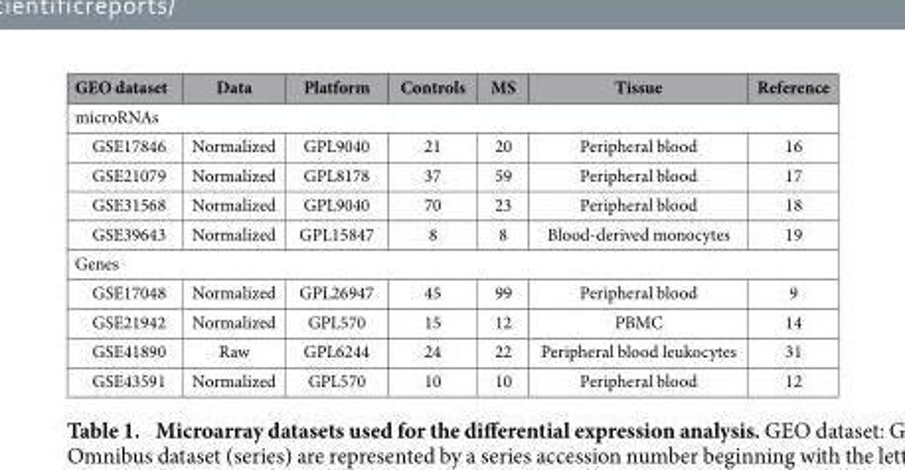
<table><thead><tr><td>GEO dataset</td><td>Data</td><td>Platform</td><td>Controls</td><td>MS</td><td>Tissue</td><td>Reference</td></tr></thead><tbody><tr><td colspan="7">microRNAs</td></tr><tr><td>GSE17846</td><td>Normalized</td><td>GPL9040</td><td>21</td><td>20</td><td>Peripheral blood</td><td>16</td></tr><tr><td>GSE21079</td><td>Normalized</td><td>GPL8178</td><td>37</td><td>59</td><td>Peripheral blood</td><td>17</td></tr><tr><td>GSE31568</td><td>Normalized</td><td>GPL9040</td><td>70</td><td>23</td><td>Peripheral blood</td><td>18</td></tr><tr><td>GSE39643</td><td>Normalized</td><td>GPL15847</td><td>8</td><td>8</td><td>Blood-derived monocytes</td><td>19</td></tr><tr><td colspan="7">Genes</td></tr><tr><td>GSE17048</td><td>Normalized</td><td>GPL26947</td><td>45</td><td>99</td><td>Peripheral blood</td><td>9</td></tr><tr><td>GSE21942</td><td>Normalized</td><td>GPL570</td><td>15</td><td>12</td><td>PBMC</td><td>14</td></tr><tr><td>GSE41890</td><td>Raw</td><td>GPL6244</td><td>24</td><td>22</td><td>Peripheral blood leukocytes</td><td>31</td></tr><tr><td>GSE43591</td><td>Normalized</td><td>GPL570</td><td>10</td><td>10</td><td>Peripheral blood</td><td>12</td></tr></tbody></table>